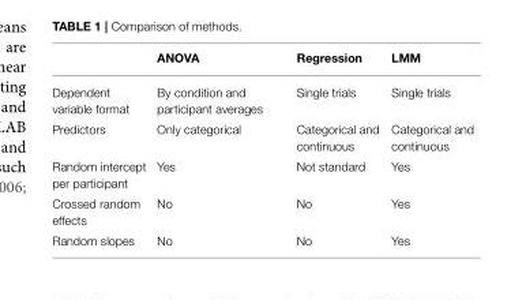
<table><thead><tr><td></td><td>ANOVA</td><td>Regression</td><td>LMM</td></tr></thead><tbody><tr><td>Dependent variable format</td><td>By condition and participant averages</td><td>Single trials</td><td>Single trials</td></tr><tr><td>Predictors</td><td>Only categorical</td><td>Categorical and continuous</td><td>Categorical and continuous</td></tr><tr><td>Random intercept per participant</td><td>Yes</td><td>Not standard</td><td>Yes</td></tr><tr><td>Crossed random effects</td><td>No</td><td>No</td><td>Yes</td></tr><tr><td>Random slopes</td><td>No</td><td>No</td><td>Yes</td></tr></tbody></table>